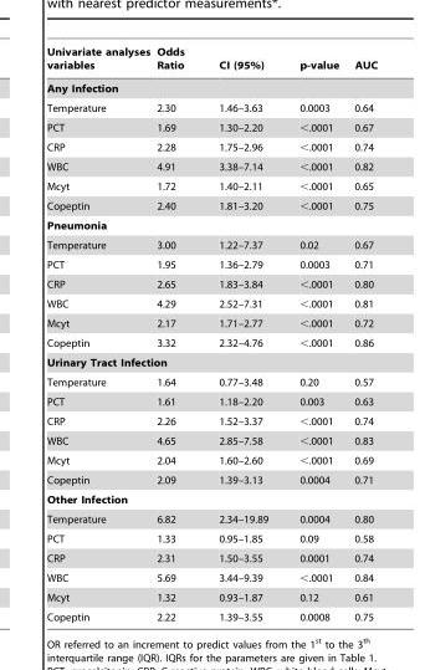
<table><thead><tr><td>Univariate analyses variables</td><td>Odds Ratio</td><td>CI (95%)</td><td>p-value</td><td>AUC</td></tr></thead><tbody><tr><td colspan="5">Any Infection</td></tr><tr><td>Temperature</td><td>2.30</td><td>1.46–3.63</td><td>0.0003</td><td>0.64</td></tr><tr><td>PCT</td><td>1.69</td><td>1.30–2.20</td><td>&lt;.0001</td><td>0.67</td></tr><tr><td>CRP</td><td>2.28</td><td>1.75–2.96</td><td>&lt;.0001</td><td>0.74</td></tr><tr><td>WBC</td><td>4.91</td><td>3.38–7.14</td><td>&lt;.0001</td><td>0.82</td></tr><tr><td>Mcyt</td><td>1.72</td><td>1.40–2.11</td><td>&lt;.0001</td><td>0.65</td></tr><tr><td>Copeptin</td><td>2.40</td><td>1.81–3.20</td><td>&lt;.0001</td><td>0.75</td></tr><tr><td colspan="5">Pneumonia</td></tr><tr><td>Temperature</td><td>3.00</td><td>1.22–7.37</td><td>0.02</td><td>0.67</td></tr><tr><td>PCT</td><td>1.95</td><td>1.36–2.79</td><td>0.0003</td><td>0.71</td></tr><tr><td>CRP</td><td>2.65</td><td>1.83–3.84</td><td>&lt;.0001</td><td>0.80</td></tr><tr><td>WBC</td><td>4.29</td><td>2.52–7.31</td><td>&lt;.0001</td><td>0.81</td></tr><tr><td>Mcyt</td><td>2.17</td><td>1.71–2.77</td><td>&lt;.0001</td><td>0.72</td></tr><tr><td>Copeptin</td><td>3.32</td><td>2.32–4.76</td><td>&lt;.0001</td><td>0.86</td></tr><tr><td colspan="5">Urinary Tract Infection</td></tr><tr><td>Temperature</td><td>1.64</td><td>0.77–3.48</td><td>0.20</td><td>0.57</td></tr><tr><td>PCT</td><td>1.61</td><td>1.18–2.20</td><td>0.003</td><td>0.63</td></tr><tr><td>CRP</td><td>2.26</td><td>1.52–3.37</td><td>&lt;.0001</td><td>0.74</td></tr><tr><td>WBC</td><td>4.65</td><td>2.85–7.58</td><td>&lt;.0001</td><td>0.83</td></tr><tr><td>Mcyt</td><td>2.04</td><td>1.60–2.60</td><td>&lt;.0001</td><td>0.69</td></tr><tr><td>Copeptin</td><td>2.09</td><td>1.39–3.13</td><td>0.0004</td><td>0.71</td></tr><tr><td colspan="5">Other Infection</td></tr><tr><td>Temperature</td><td>6.82</td><td>2.34–19.89</td><td>0.0004</td><td>0.80</td></tr><tr><td>PCT</td><td>1.33</td><td>0.95–1.85</td><td>0.09</td><td>0.58</td></tr><tr><td>CRP</td><td>2.31</td><td>1.50–3.55</td><td>0.0001</td><td>0.74</td></tr><tr><td>WBC</td><td>5.69</td><td>3.44–9.39</td><td>&lt;.0001</td><td>0.84</td></tr><tr><td>Mcyt</td><td>1.32</td><td>0.93–1.87</td><td>0.12</td><td>0.61</td></tr><tr><td>Copeptin</td><td>2.22</td><td>1.39–3.55</td><td>0.0008</td><td>0.75</td></tr></tbody></table>